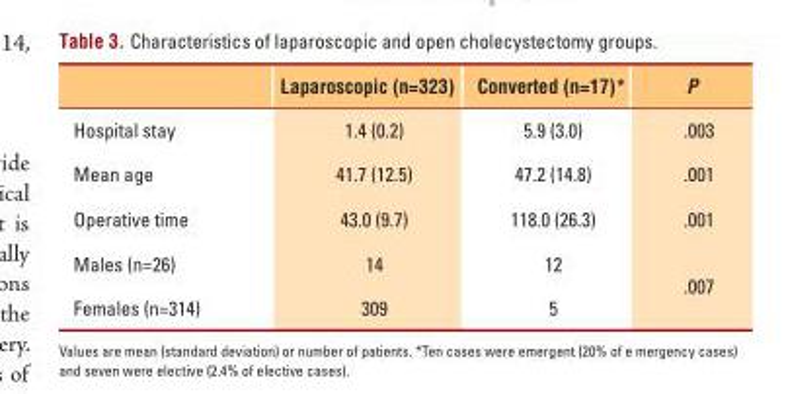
<table><thead><tr><td></td><td>Laparoscopic (n=323)</td><td>Converted (n=17)*</td><td>P</td></tr></thead><tbody><tr><td>Hospital stay</td><td>1.4 (0.2)</td><td>5.9 (3.0)</td><td>.003</td></tr><tr><td>Mean age</td><td>41.7 (12.5)</td><td>47.2 (14.8)</td><td>.001</td></tr><tr><td>Operative time</td><td>43.0 (9.7)</td><td>118.0 (26.3)</td><td>.001</td></tr><tr><td>Males (n=26)</td><td>14</td><td>12</td><td rowspan="2">.007</td></tr><tr><td>Females (n=314)</td><td>309</td><td>5</td></tr></tbody></table>